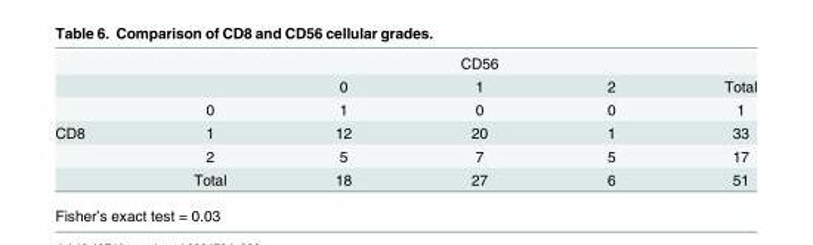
<table><thead><tr><td></td><td></td><td></td><td>CD56</td><td></td><td></td></tr></thead><tbody><tr><td></td><td></td><td>0</td><td>1</td><td>2</td><td>Total</td></tr><tr><td></td><td>0</td><td>1</td><td>0</td><td>0</td><td>1</td></tr><tr><td rowspan="3">CD8</td><td>1</td><td>12</td><td>20</td><td>1</td><td>33</td></tr><tr><td>2</td><td>5</td><td>7</td><td>5</td><td>17</td></tr><tr><td>Total</td><td>18</td><td>27</td><td>6</td><td>51</td></tr></tbody></table>